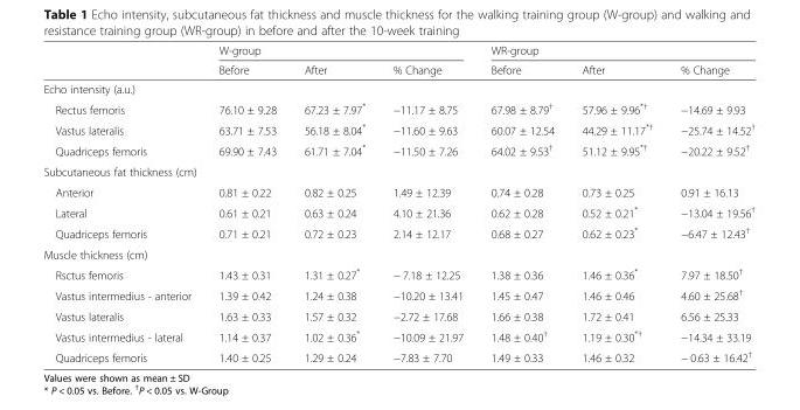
<table><thead><tr><td rowspan="2"></td><td colspan="3">W-group</td><td colspan="3">WR-group</td></tr><tr><td>Before</td><td>After</td><td>% Change</td><td>Before</td><td>After</td><td>% Change</td></tr></thead><tbody><tr><td colspan="7">Echo intensity (a.u.)</td></tr><tr><td>Rectus femoris</td><td>76.10 ± 9.28</td><td>67.23 ± 7.97*</td><td>−11.17 ± 8.75</td><td>67.98 ± 8.79<sup>†</sup></td><td>57.96 ± 9.96<sup>*†</sup></td><td>−14.69 ± 9.93</td></tr><tr><td>Vastus lateralis</td><td>63.71 ± 7.53</td><td>56.18 ± 8.04*</td><td>−11.60 ± 9.63</td><td>60.07 ± 12.54</td><td>44.29 ± 11.17<sup>*†</sup></td><td>−25.74 ± 14.52<sup>†</sup></td></tr><tr><td>Quadriceps femoris</td><td>69.90 ± 7.43</td><td>61.71 ± 7.04*</td><td>−11.50 ± 7.26</td><td>64.02 ± 9.53<sup>†</sup></td><td>51.12 ± 9.95<sup>*†</sup></td><td>−20.22 ± 9.52<sup>†</sup></td></tr><tr><td colspan="7">Subcutaneous fat thickness (cm)</td></tr><tr><td>Anterior</td><td>0.81 ± 0.22</td><td>0.82 ± 0.25</td><td>1.49 ± 12.39</td><td>0.74 ± 0.28</td><td>0.73 ± 0.25</td><td>0.91 ± 16.13</td></tr><tr><td>Lateral</td><td>0.61 ± 0.21</td><td>0.63 ± 0.24</td><td>4.10 ± 21.36</td><td>0.62 ± 0.28</td><td>0.52 ± 0.21*</td><td>−13.04 ± 19.56<sup>†</sup></td></tr><tr><td>Quadriceps femoris</td><td>0.71 ± 0.21</td><td>0.72 ± 0.23</td><td>2.14 ± 12.17</td><td>0.68 ± 0.27</td><td>0.62 ± 0.23*</td><td>−6.47 ± 12.43<sup>†</sup></td></tr><tr><td colspan="7">Muscle thickness (cm)</td></tr><tr><td>Rsctus femoris</td><td>1.43 ± 0.31</td><td>1.31 ± 0.27*</td><td>− 7.18 ± 12.25</td><td>1.38 ± 0.36</td><td>1.46 ± 0.36*</td><td>7.97 ± 18.50<sup>†</sup></td></tr><tr><td>Vastus intermedius - anterior</td><td>1.39 ± 0.42</td><td>1.24 ± 0.38</td><td>−10.20 ± 13.41</td><td>1.45 ± 0.47</td><td>1.46 ± 0.46</td><td>4.60 ± 25.68<sup>†</sup></td></tr><tr><td>Vastus lateralis</td><td>1.63 ± 0.33</td><td>1.57 ± 0.32</td><td>−2.72 ± 17.68</td><td>1.66 ± 0.38</td><td>1.72 ± 0.41</td><td>6.56 ± 25.33</td></tr><tr><td>Vastus intermedius - lateral</td><td>1.14 ± 0.37</td><td>1.02 ± 0.36*</td><td>−10.09 ± 21.97</td><td>1.48 ± 0.40<sup>†</sup></td><td>1.19 ± 0.30<sup>*†</sup></td><td>−14.34 ± 33.19</td></tr><tr><td>Quadriceps femoris</td><td>1.40 ± 0.25</td><td>1.29 ± 0.24</td><td>−7.83 ± 7.70</td><td>1.49 ± 0.33</td><td>1.46 ± 0.32</td><td>− 0.63 ± 16.42<sup>†</sup></td></tr></tbody></table>